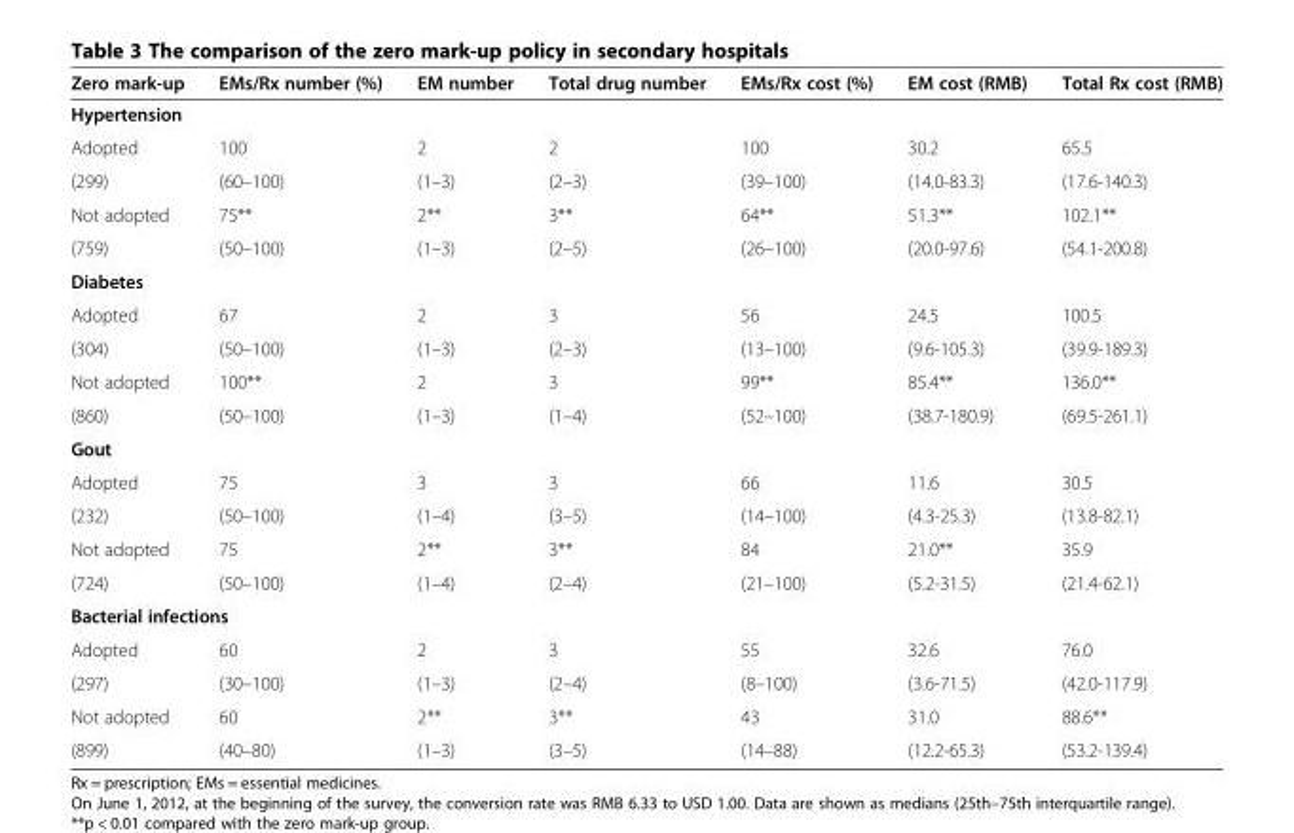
<table><thead><tr><td>Zero mark-up</td><td>EMs/Rx number (%)</td><td>EM number</td><td>Total drug number</td><td>EMs/Rx cost (%)</td><td>EM cost (RMB)</td><td>Total Rx cost (RMB)</td></tr></thead><tbody><tr><td colspan="7">Hypertension</td></tr><tr><td>Adopted</td><td>100</td><td>2</td><td>2</td><td>100</td><td>30.2</td><td>65.5</td></tr><tr><td>(299)</td><td>(60–100)</td><td>(1–3)</td><td>(2–3)</td><td>(39–100)</td><td>(14.0-83.3)</td><td>(17.6-140.3)</td></tr><tr><td>Not adopted</td><td>75**</td><td>2**</td><td>3**</td><td>64**</td><td>51.3**</td><td>102.1**</td></tr><tr><td>(759)</td><td>(50–100)</td><td>(1–3)</td><td>(2–5)</td><td>(26–100)</td><td>(20.0-97.6)</td><td>(54.1-200.8)</td></tr><tr><td colspan="7">Diabetes</td></tr><tr><td>Adopted</td><td>67</td><td>2</td><td>3</td><td>56</td><td>24.5</td><td>100.5</td></tr><tr><td>(304)</td><td>(50–100)</td><td>(1–3)</td><td>(2–3)</td><td>(13–100)</td><td>(9.6-105.3)</td><td>(39.9-189.3)</td></tr><tr><td>Not adopted</td><td>100**</td><td>2</td><td>3</td><td>99**</td><td>85.4**</td><td>136.0**</td></tr><tr><td>(860)</td><td>(50–100)</td><td>(1–3)</td><td>(1–4)</td><td>(52–100)</td><td>(38.7-180.9)</td><td>(69.5-261.1)</td></tr><tr><td colspan="7">Gout</td></tr><tr><td>Adopted</td><td>75</td><td>3</td><td>3</td><td>66</td><td>11.6</td><td>30.5</td></tr><tr><td>(232)</td><td>(50–100)</td><td>(1–4)</td><td>(3–5)</td><td>(14–100)</td><td>(4.3-25.3)</td><td>(13.8-82.1)</td></tr><tr><td>Not adopted</td><td>75</td><td>2**</td><td>3**</td><td>84</td><td>21.0**</td><td>35.9</td></tr><tr><td>(724)</td><td>(50–100)</td><td>(1–4)</td><td>(2–4)</td><td>(21–100)</td><td>(5.2-31.5)</td><td>(21.4-62.1)</td></tr><tr><td colspan="7">Bacterial infections</td></tr><tr><td>Adopted</td><td>60</td><td>2</td><td>3</td><td>55</td><td>32.6</td><td>76.0</td></tr><tr><td>(297)</td><td>(30–100)</td><td>(1–3)</td><td>(2–4)</td><td>(8–100)</td><td>(3.6-71.5)</td><td>(42.0-117.9)</td></tr><tr><td>Not adopted</td><td>60</td><td>2**</td><td>3**</td><td>43</td><td>31.0</td><td>88.6**</td></tr><tr><td>(899)</td><td>(40–80)</td><td>(1–3)</td><td>(3–5)</td><td>(14–88)</td><td>(12.2-65.3)</td><td>(53.2-139.4)</td></tr></tbody></table>